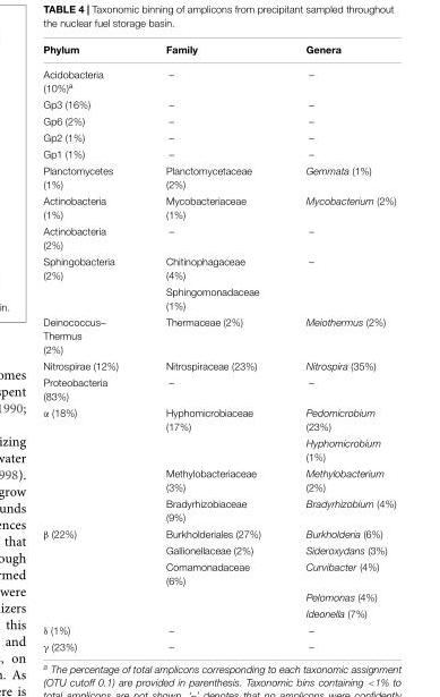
<table><thead><tr><td>Phylum</td><td>Family</td><td>Genera</td></tr></thead><tbody><tr><td>Acidobacteria (10%)<sup>a</sup></td><td>–</td><td>–</td></tr><tr><td>Gp3 (16%)</td><td>–</td><td>–</td></tr><tr><td>Gp6 (2%)</td><td>–</td><td>–</td></tr><tr><td>Gp2 (1%)</td><td>–</td><td>–</td></tr><tr><td>Gp1 (1%)</td><td>–</td><td>–</td></tr><tr><td>Planctomycetes (1%)</td><td>Planctomycetaceae (2%)</td><td>Gemmata (1%)</td></tr><tr><td>Actinobacteria (1%)</td><td>Mycobacteriaceae (1%)</td><td>Mycobacterium (2%)</td></tr><tr><td>Actinobacteria (2%)</td><td>–</td><td>–</td></tr><tr><td rowspan="2">Sphingobacteria (2%)</td><td>Chitinophagaceae (4%)</td><td>–</td></tr><tr><td>Sphingomonadaceae (1%)</td><td></td></tr><tr><td>Deinococcus– Thermus (2%)</td><td>Thermaceae (2%)</td><td>Meiothermus (2%)</td></tr><tr><td>Nitrospirae (12%)</td><td>Nitrospiraceae (23%)</td><td>Nitrospira (35%)</td></tr><tr><td>Proteobacteria (83%)</td><td>–</td><td>–</td></tr><tr><td rowspan="4">α (18%)</td><td>Hyphomicrobiaceae (17%)</td><td>Pedomicrobium (23%)</td></tr><tr><td></td><td>Hyphomicrobium (1%)</td></tr><tr><td>Methylobacteriaceae (3%)</td><td>Methylobacterium (2%)</td></tr><tr><td>Bradyrhizobiaceae (9%)</td><td>Bradyrhizobium (4%)</td></tr><tr><td rowspan="5">β (22%)</td><td>Burkholderiales (27%)</td><td>Burkholderia (6%)</td></tr><tr><td>Gallionellaceae (2%)</td><td>Sideroxydans (3%)</td></tr><tr><td>Comamonadaceae (6%)</td><td>Curvibacter (4%)</td></tr><tr><td></td><td>Pelomonas (4%)</td></tr><tr><td></td><td>Ideonella (7%)</td></tr><tr><td>δ (1%)</td><td>–</td><td>–</td></tr><tr><td>γ (23%)</td><td>–</td><td>–</td></tr></tbody></table>